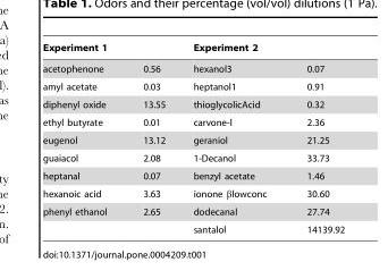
<table><thead><tr><td colspan="2">Experiment 1</td><td colspan="2">Experiment 2</td></tr><tr><td>acetophenone</td><td>0.56</td><td>hexanol3</td><td>0.07</td></tr></thead><tbody><tr><td>amyl acetate</td><td>0.03</td><td>heptanol1</td><td>0.91</td></tr><tr><td>diphenyl oxide</td><td>13.55</td><td>thioglycolicAcid</td><td>0.32</td></tr><tr><td>ethyl butyrate</td><td>0.01</td><td>carvone-l</td><td>2.36</td></tr><tr><td>eugenol</td><td>13.12</td><td>geraniol</td><td>21.25</td></tr><tr><td>guaiacol</td><td>2.08</td><td>1-Decanol</td><td>33.73</td></tr><tr><td>heptanal</td><td>0.07</td><td>benzyl acetate</td><td>1.46</td></tr><tr><td>hexanoic acid</td><td>3.63</td><td>ionone βlowconc</td><td>30.60</td></tr><tr><td rowspan="2">phenyl ethanol</td><td>2.65</td><td>dodecanal</td><td>27.74</td></tr><tr><td></td><td>santalol</td><td>14139.92</td></tr></tbody></table>